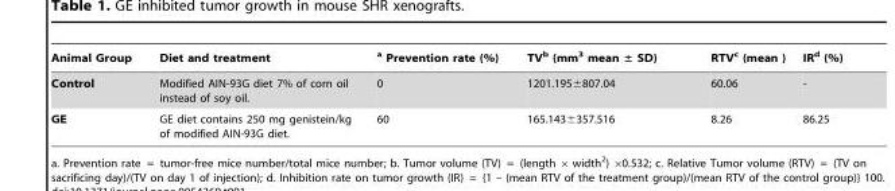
<table><thead><tr><td>Animal Group</td><td>Diet and treatment</td><td><sup>a</sup> Prevention rate (%)</td><td>TV<sup>b</sup> (mm<sup>3</sup> mean ± SD)</td><td>RTV<sup>c</sup> (mean )</td><td>IR<sup>d</sup> (%)</td></tr></thead><tbody><tr><td>Control</td><td>Modified AIN-93G diet 7% of corn oil instead of soy oil.</td><td>0</td><td>1201.195±807.04</td><td>60.06</td><td>-</td></tr><tr><td>GE</td><td>GE diet contains 250 mg genistein/kg of modified AIN-93G diet.</td><td>60</td><td>165.143±357.516</td><td>8.26</td><td>86.25</td></tr></tbody></table>